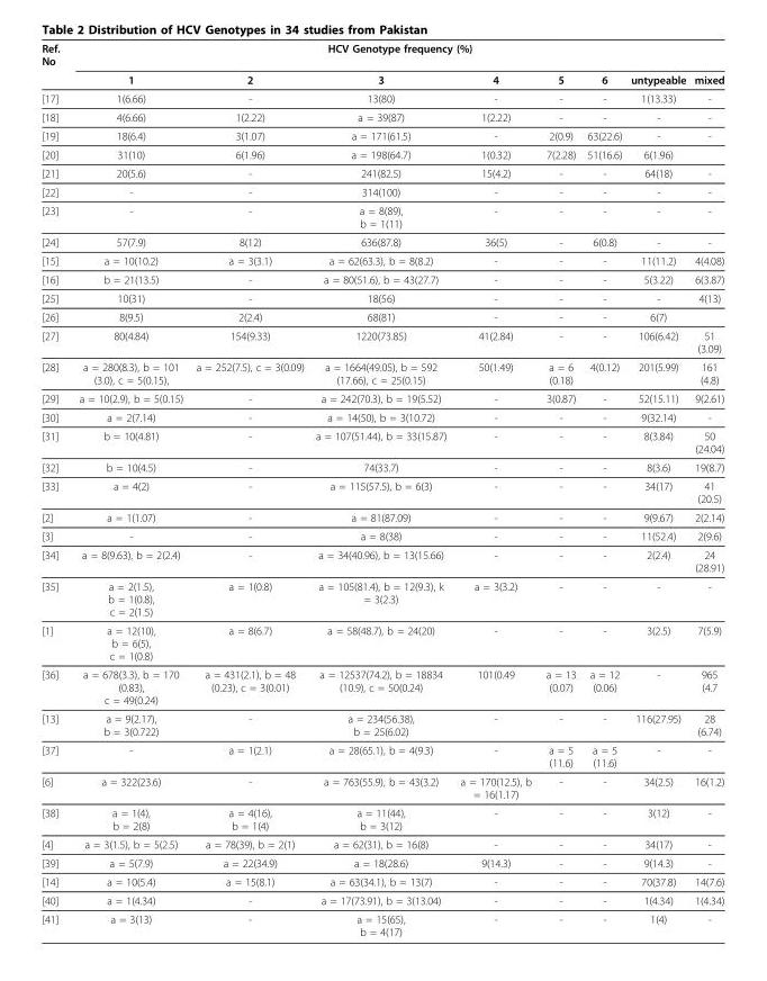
<table><thead><tr><td rowspan="2">Ref. No</td><td colspan="8">HCV Genotype frequency (%)</td></tr><tr><td>1</td><td>2</td><td>3</td><td>4</td><td>5</td><td>6</td><td>untypeable</td><td>mixed</td></tr></thead><tbody><tr><td>[17]</td><td>1(6.66)</td><td>-</td><td>13(80)</td><td>-</td><td>-</td><td>-</td><td>1(13.33)</td><td>-</td></tr><tr><td>[18]</td><td>4(6.66)</td><td>1(2.22)</td><td>a = 39(87)</td><td>1(2.22)</td><td>-</td><td>-</td><td>-</td><td>-</td></tr><tr><td>[19]</td><td>18(6.4)</td><td>3(1.07)</td><td>a = 171(61.5)</td><td>-</td><td>2(0.9)</td><td>63(22.6)</td><td>-</td><td>-</td></tr><tr><td>[20]</td><td>31(10)</td><td>6(1.96)</td><td>a = 198(64.7)</td><td>1(0.32)</td><td>7(2.28)</td><td>51(16.6)</td><td>6(1.96)</td><td></td></tr><tr><td>[21]</td><td>20(5.6)</td><td>-</td><td>241(82.5)</td><td>15(4.2)</td><td>-</td><td>-</td><td>64(18)</td><td>-</td></tr><tr><td>[22]</td><td>-</td><td>-</td><td>314(100)</td><td>-</td><td>-</td><td>-</td><td>-</td><td>-</td></tr><tr><td>[23]</td><td>-</td><td>-</td><td>a = 8(89), b = 1(11)</td><td>-</td><td>-</td><td>-</td><td>-</td><td>-</td></tr><tr><td>[24]</td><td>57(7.9)</td><td>8(12)</td><td>636(87.8)</td><td>36(5)</td><td>-</td><td>6(0.8)</td><td>-</td><td>-</td></tr><tr><td>[15]</td><td>a = 10(10.2)</td><td>a = 3(3.1)</td><td>a = 62(63.3), b = 8(8.2)</td><td>-</td><td>-</td><td>-</td><td>11(11.2)</td><td>4(4.08)</td></tr><tr><td>[16]</td><td>b = 21(13.5)</td><td>-</td><td>a = 80(51.6), b = 43(27.7)</td><td>-</td><td>-</td><td>-</td><td>5(3.22)</td><td>6(3.87)</td></tr><tr><td>[25]</td><td>10(31)</td><td>-</td><td>18(56)</td><td>-</td><td>-</td><td>-</td><td>-</td><td>4(13)</td></tr><tr><td>[26]</td><td>8(9.5)</td><td>2(2.4)</td><td>68(81)</td><td>-</td><td>-</td><td>-</td><td>6(7)</td><td></td></tr><tr><td>[27]</td><td>80(4.84)</td><td>154(9.33)</td><td>1220(73.85)</td><td>41(2.84)</td><td>-</td><td>-</td><td>106(6.42)</td><td>51 (3.09)</td></tr><tr><td>[28]</td><td>a = 280(8.3), b = 101 (3.0), c = 5(0.15),</td><td>a = 252(7.5), c = 3(0.09)</td><td>a = 1664(49.05), b = 592 (17.66), c = 25(0.15)</td><td>50(1.49)</td><td>a = 6 (0.18)</td><td>4(0.12)</td><td>201(5.99)</td><td>161 (4.8)</td></tr><tr><td>[29]</td><td>a = 10(2.9), b = 5(0.15)</td><td>-</td><td>a = 242(70.3), b = 19(5.52)</td><td>-</td><td>3(0.87)</td><td>-</td><td>52(15.11)</td><td>9(2.61)</td></tr><tr><td>[30]</td><td>a = 2(7.14)</td><td>-</td><td>a = 14(50), b = 3(10.72)</td><td>-</td><td>-</td><td>-</td><td>9(32.14)</td><td>-</td></tr><tr><td>[31]</td><td>b = 10(4.81)</td><td>-</td><td>a = 107(51.44), b = 33(15.87)</td><td>-</td><td>-</td><td>-</td><td>8(3.84)</td><td>50 (24.04)</td></tr><tr><td>[32]</td><td>b = 10(4.5)</td><td>-</td><td>74(33.7)</td><td>-</td><td>-</td><td>-</td><td>8(3.6)</td><td>19(8.7)</td></tr><tr><td>[33]</td><td>a = 4(2)</td><td>-</td><td>a = 115(57.5), b = 6(3)</td><td>-</td><td>-</td><td>-</td><td>34(17)</td><td>41 (20.5)</td></tr><tr><td>[2]</td><td>a = 1(1.07)</td><td>-</td><td>a = 81(87.09)</td><td>-</td><td>-</td><td>-</td><td>9(9.67)</td><td>2(2.14)</td></tr><tr><td>[3]</td><td>-</td><td>-</td><td>a = 8(38)</td><td>-</td><td>-</td><td>-</td><td>11(52.4)</td><td>2(9.6)</td></tr><tr><td>[34]</td><td>a = 8(9.63), b = 2(2.4)</td><td>-</td><td>a = 34(40.96), b = 13(15.66)</td><td>-</td><td>-</td><td>-</td><td>2(2.4)</td><td>24 (28.91)</td></tr><tr><td>[35]</td><td>a = 2(1.5), b = 1(0.8), c = 2(1.5)</td><td>a = 1(0.8)</td><td>a = 105(81.4), b = 12(9.3), k = 3(2.3)</td><td>a = 3(3.2)</td><td>-</td><td>-</td><td>-</td><td>-</td></tr><tr><td>[1]</td><td>a = 12(10), b = 6(5), c = 1(0.8)</td><td>a = 8(6.7)</td><td>a = 58(48.7), b = 24(20)</td><td>-</td><td>-</td><td>-</td><td>3(2.5)</td><td>7(5.9)</td></tr><tr><td>[36]</td><td>a = 678(3.3), b = 170 (0.83), c = 49(0.24)</td><td>a = 431(2.1), b = 48 (0.23), c = 3(0.01)</td><td>a = 12537(74.2), b = 18834 (10.9), c = 50(0.24)</td><td>101(0.49</td><td>a = 13 (0.07)</td><td>a = 12 (0.06)</td><td>-</td><td>965 (4.7</td></tr><tr><td>[13]</td><td>a = 9(2.17), b = 3(0.722)</td><td>-</td><td>a = 234(56.38), b = 25(6.02)</td><td>-</td><td>-</td><td>-</td><td>116(27.95)</td><td>28 (6.74)</td></tr><tr><td>[37]</td><td>-</td><td>a = 1(2.1)</td><td>a = 28(65.1), b = 4(9.3)</td><td>-</td><td>a = 5 (11.6)</td><td>a = 5 (11.6)</td><td>-</td><td>-</td></tr><tr><td>[6]</td><td>a = 322(23.6)</td><td>-</td><td>a = 763(55.9), b = 43(3.2)</td><td>a = 170(12.5), b = 16(1.17)</td><td>-</td><td>-</td><td>34(2.5)</td><td>16(1.2)</td></tr><tr><td>[38]</td><td>a = 1(4), b = 2(8)</td><td>a = 4(16), b = 1(4)</td><td>a = 11(44), b = 3(12)</td><td>-</td><td>-</td><td>-</td><td>3(12)</td><td>-</td></tr><tr><td>[4]</td><td>a = 3(1.5), b = 5(2.5)</td><td>a = 78(39), b = 2(1)</td><td>a = 62(31), b = 16(8)</td><td>-</td><td>-</td><td>-</td><td>34(17)</td><td>-</td></tr><tr><td>[39]</td><td>a = 5(7.9)</td><td>a = 22(34.9)</td><td>a = 18(28.6)</td><td>9(14.3)</td><td>-</td><td>-</td><td>9(14.3)</td><td>-</td></tr><tr><td>[14]</td><td>a = 10(5.4)</td><td>a = 15(8.1)</td><td>a = 63(34.1), b = 13(7)</td><td>-</td><td>-</td><td>-</td><td>70(37.8)</td><td>14(7.6)</td></tr><tr><td>[40]</td><td>a = 1(4.34)</td><td>-</td><td>a = 17(73.91), b = 3(13.04)</td><td>-</td><td>-</td><td>-</td><td>1(4.34)</td><td>1(4.34)</td></tr><tr><td>[41]</td><td>a = 3(13)</td><td>-</td><td>a = 15(65), b = 4(17)</td><td>-</td><td>-</td><td>-</td><td>1(4)</td><td>-</td></tr></tbody></table>